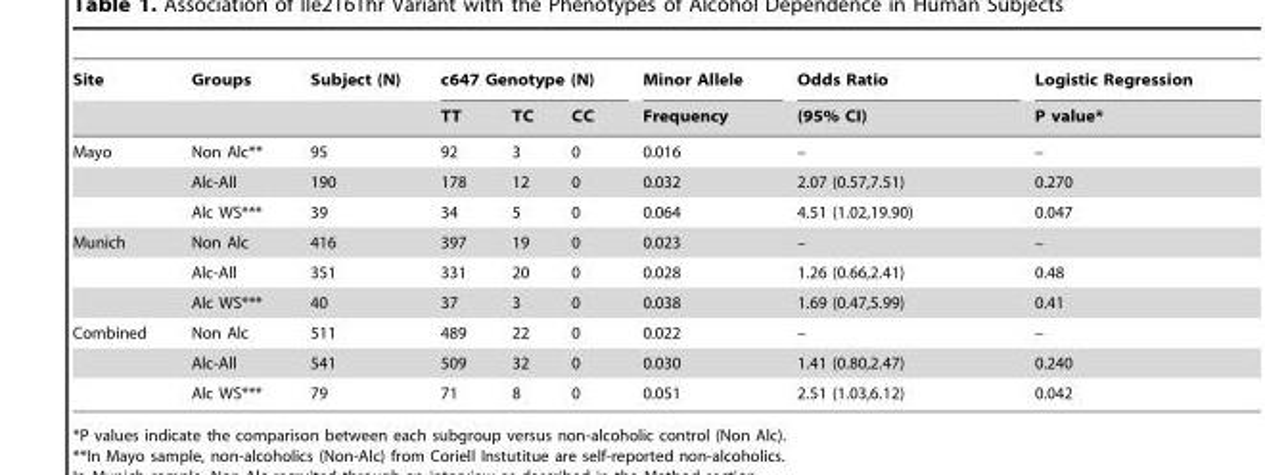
<table><thead><tr><td rowspan="2">Site</td><td rowspan="2">Groups</td><td rowspan="2">Subject (N)</td><td colspan="3">c647 Genotype (N)</td><td rowspan="2">Minor Allele Frequency</td><td rowspan="2">Odds Ratio (95% CI)</td><td rowspan="2">Logistic Regression P value*</td></tr><tr><td>TT</td><td>TC</td><td>CC</td></tr></thead><tbody><tr><td rowspan="3">Mayo</td><td>Non Alc**</td><td>95</td><td>92</td><td>3</td><td>0</td><td>0.016</td><td>–</td><td>–</td></tr><tr><td>Alc-All</td><td>190</td><td>178</td><td>12</td><td>0</td><td>0.032</td><td>2.07 (0.57,7.51)</td><td>0.270</td></tr><tr><td>Alc WS***</td><td>39</td><td>34</td><td>5</td><td>0</td><td>0.064</td><td>4.51 (1.02,19.90)</td><td>0.047</td></tr><tr><td rowspan="3">Munich</td><td>Non Alc</td><td>416</td><td>397</td><td>19</td><td>0</td><td>0.023</td><td>–</td><td>–</td></tr><tr><td>Alc-All</td><td>351</td><td>331</td><td>20</td><td>0</td><td>0.028</td><td>1.26 (0.66,2.41)</td><td>0.48</td></tr><tr><td>Alc WS***</td><td>40</td><td>37</td><td>3</td><td>0</td><td>0.038</td><td>1.69 (0.47,5.99)</td><td>0.41</td></tr><tr><td rowspan="3">Combined</td><td>Non Alc</td><td>511</td><td>489</td><td>22</td><td>0</td><td>0.022</td><td>–</td><td>–</td></tr><tr><td>Alc-All</td><td>541</td><td>509</td><td>32</td><td>0</td><td>0.030</td><td>1.41 (0.80,2.47)</td><td>0.240</td></tr><tr><td>Alc WS***</td><td>79</td><td>71</td><td>8</td><td>0</td><td>0.051</td><td>2.51 (1.03,6.12)</td><td>0.042</td></tr></tbody></table>